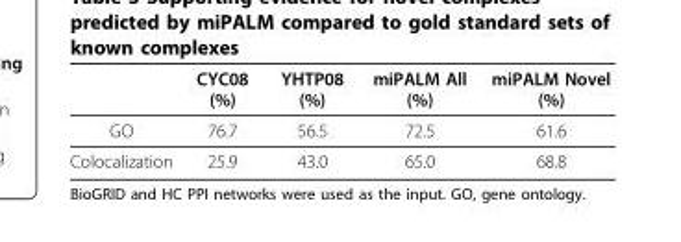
<table><thead><tr><td></td><td>CYC08 (%)</td><td>YHTP08 (%)</td><td>miPALM All (%)</td><td>miPALM Novel (%)</td></tr></thead><tbody><tr><td>GO</td><td>76.7</td><td>56.5</td><td>72.5</td><td>61.6</td></tr><tr><td>Colocalization</td><td>25.9</td><td>43.0</td><td>65.0</td><td>68.8</td></tr></tbody></table>